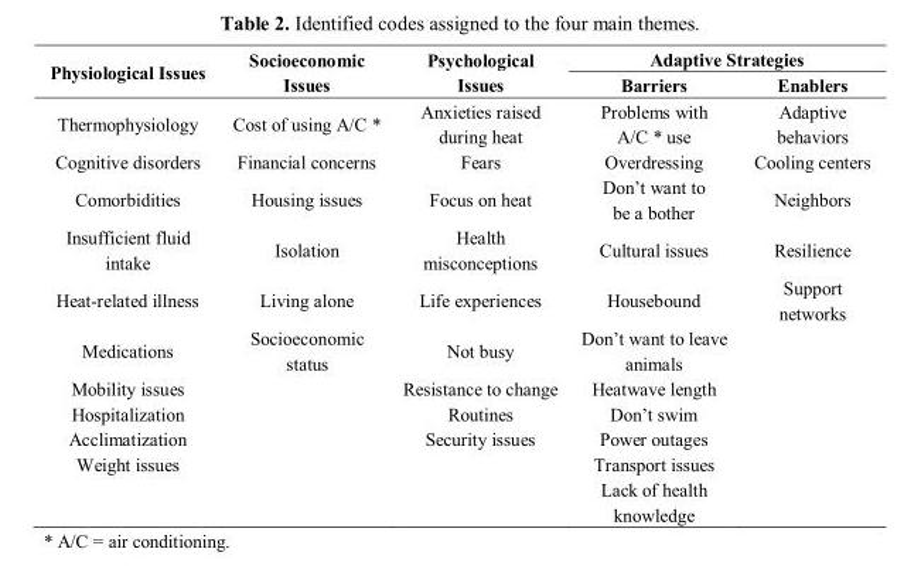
<table><thead><tr><td rowspan="2">Physiological Issues</td><td rowspan="2">Socioeconomic Issues</td><td rowspan="2">Psychological Issues</td><td colspan="2">Adaptive Strategies</td></tr><tr><td>Barriers</td><td>Enablers</td></tr></thead><tbody><tr><td>Thermophysiology</td><td>Cost of using A/C *</td><td>Anxieties raised during heat</td><td>Problems with A/C * use</td><td>Adaptive behaviors</td></tr><tr><td>Cognitive disorders</td><td>Financial concerns</td><td>Fears</td><td>Overdressing</td><td>Cooling centers</td></tr><tr><td>Comorbidities</td><td>Housing issues</td><td>Focus on heat</td><td>Don’t want to be a bother</td><td>Neighbors</td></tr><tr><td>Insufficient fluid intake</td><td>Isolation</td><td>Health misconceptions</td><td>Cultural issues</td><td>Resilience</td></tr><tr><td>Heat-related illness</td><td>Living alone</td><td>Life experiences</td><td>Housebound</td><td>Support networks</td></tr><tr><td>Medications</td><td>Socioeconomic status</td><td>Not busy</td><td>Don’t want to leave animals</td><td></td></tr><tr><td>Mobility issues</td><td></td><td>Resistance to change</td><td>Heatwave length</td><td></td></tr><tr><td>Hospitalization</td><td></td><td>Routines</td><td>Don’t swim</td><td></td></tr><tr><td>Acclimatization</td><td></td><td>Security issues</td><td>Power outages</td><td></td></tr><tr><td rowspan="2">Weight issues</td><td></td><td></td><td>Transport issues</td><td></td></tr><tr><td></td><td></td><td>Lack of health knowledge</td><td></td></tr></tbody></table>